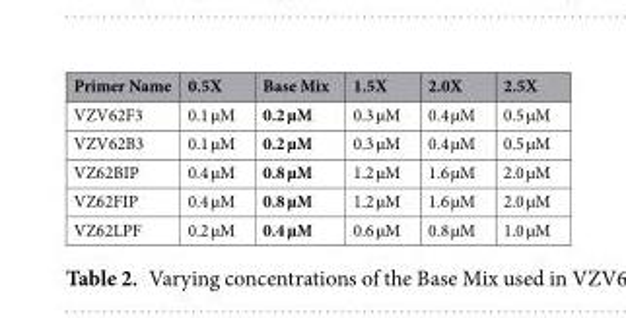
<table><thead><tr><td>Primer Name</td><td>0.5X</td><td>Base Mix</td><td>1.5X</td><td>2.0X</td><td>2.5X</td></tr></thead><tbody><tr><td>VZV62F3</td><td>0.1 µM</td><td>0.2 µM</td><td>0.3 µM</td><td>0.4 µM</td><td>0.5 µM</td></tr><tr><td>VZV62B3</td><td>0.1 µM</td><td>0.2 µM</td><td>0.3 µM</td><td>0.4 µM</td><td>0.5 µM</td></tr><tr><td>VZ62BIP</td><td>0.4 µM</td><td>0.8 µM</td><td>1.2 µM</td><td>1.6 µM</td><td>2.0 µM</td></tr><tr><td>VZ62FIP</td><td>0.4 µM</td><td>0.8 µM</td><td>1.2 µM</td><td>1.6 µM</td><td>2.0 µM</td></tr><tr><td>VZ62LPF</td><td>0.2 µM</td><td>0.4 µM</td><td>0.6 µM</td><td>0.8 µM</td><td>1.0 µM</td></tr></tbody></table>